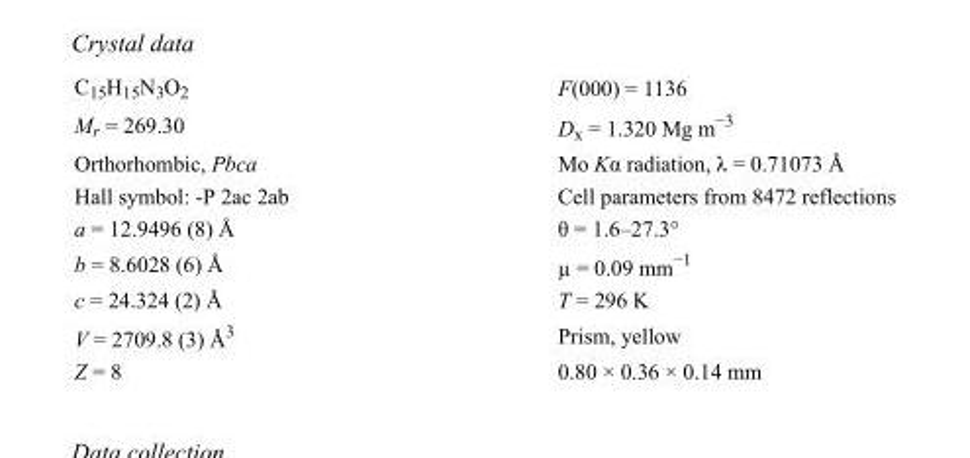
<table><tbody><tr><td>C<sub>15</sub>H<sub>15</sub>N<sub>3</sub>O<sub>2</sub></td><td>F(000) = 1136</td></tr><tr><td>M<sub>r</sub> = 269.30</td><td>D<sub>x</sub> = 1.320 Mg m<sup>−3</sup></td></tr><tr><td>Orthorhombic, Pbca</td><td>Mo Kα radiation, λ = 0.71073 Å</td></tr><tr><td>Hall symbol: -P 2ac 2ab</td><td>Cell parameters from 8472 reflections</td></tr><tr><td>a = 12.9496 (8) Å</td><td>θ = 1.6–27.3°</td></tr><tr><td>b = 8.6028 (6) Å</td><td>µ = 0.09 mm<sup>−1</sup></td></tr><tr><td>c = 24.324 (2) Å</td><td>T = 296 K</td></tr><tr><td>V = 2709.8 (3) Å<sup>3</sup></td><td>Prism, yellow</td></tr><tr><td>Z = 8</td><td>0.80 × 0.36 × 0.14 mm</td></tr></tbody></table>